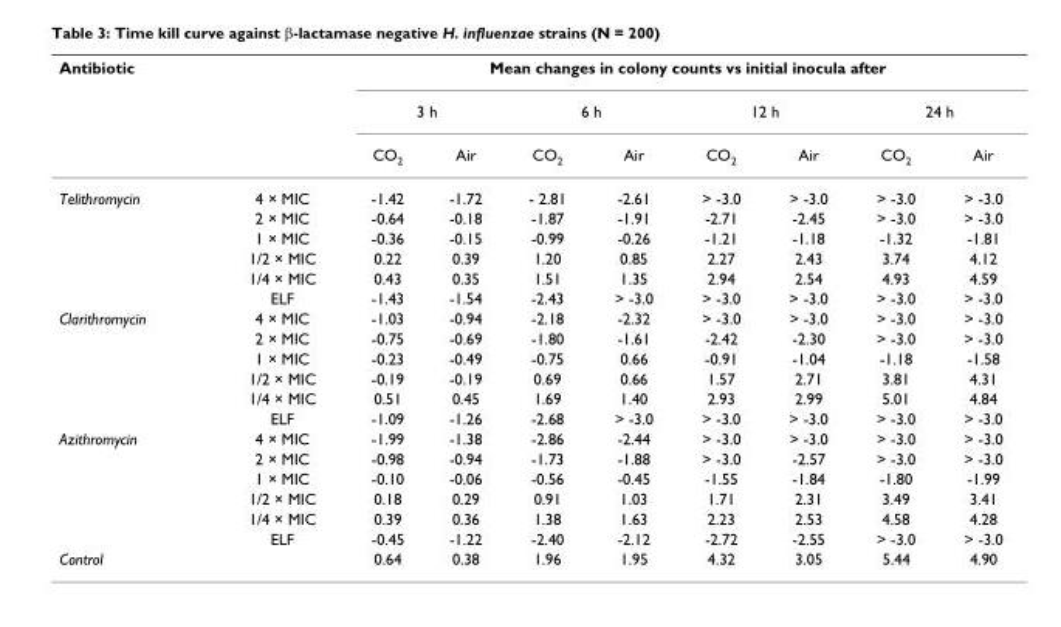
<table><thead><tr><td rowspan="3">Antibiotic</td><td rowspan="3"></td><td colspan="8">Mean changes in colony counts vs initial inocula after</td></tr><tr><td colspan="2">3 h</td><td colspan="2">6 h</td><td colspan="2">12 h</td><td colspan="2">24 h</td></tr><tr><td>CO<sub>2</sub></td><td>Air</td><td>CO<sub>2</sub></td><td>Air</td><td>CO<sub>2</sub></td><td>Air</td><td>CO<sub>2</sub></td><td>Air</td></tr></thead><tbody><tr><td rowspan="6">Telithromycin</td><td>4 × MIC</td><td>-1.42</td><td>-1.72</td><td>- 2.81</td><td>-2.61</td><td>&gt; -3.0</td><td>&gt; -3.0</td><td>&gt; -3.0</td><td>&gt; -3.0</td></tr><tr><td>2 × MIC</td><td>-0.64</td><td>-0.18</td><td>-1.87</td><td>-1.91</td><td>-2.71</td><td>-2.45</td><td>&gt; -3.0</td><td>&gt; -3.0</td></tr><tr><td>1 × MIC</td><td>-0.36</td><td>-0.15</td><td>-0.99</td><td>-0.26</td><td>-1.21</td><td>-1.18</td><td>-1.32</td><td>-1.81</td></tr><tr><td>1/2 × MIC</td><td>0.22</td><td>0.39</td><td>1.20</td><td>0.85</td><td>2.27</td><td>2.43</td><td>3.74</td><td>4.12</td></tr><tr><td>1/4 × MIC</td><td>0.43</td><td>0.35</td><td>1.51</td><td>1.35</td><td>2.94</td><td>2.54</td><td>4.93</td><td>4.59</td></tr><tr><td>ELF</td><td>-1.43</td><td>-1.54</td><td>-2.43</td><td>&gt; -3.0</td><td>&gt; -3.0</td><td>&gt; -3.0</td><td>&gt; -3.0</td><td>&gt; -3.0</td></tr><tr><td rowspan="6">Clarithromycin</td><td>4 × MIC</td><td>-1.03</td><td>-0.94</td><td>-2.18</td><td>-2.32</td><td>&gt; -3.0</td><td>&gt; -3.0</td><td>&gt; -3.0</td><td>&gt; -3.0</td></tr><tr><td>2 × MIC</td><td>-0.75</td><td>-0.69</td><td>-1.80</td><td>-1.61</td><td>-2.42</td><td>-2.30</td><td>&gt; -3.0</td><td>&gt; -3.0</td></tr><tr><td>1 × MIC</td><td>-0.23</td><td>-0.49</td><td>-0.75</td><td>0.66</td><td>-0.91</td><td>-1.04</td><td>-1.18</td><td>-1.58</td></tr><tr><td>1/2 × MIC</td><td>-0.19</td><td>-0.19</td><td>0.69</td><td>0.66</td><td>1.57</td><td>2.71</td><td>3.81</td><td>4.31</td></tr><tr><td>1/4 × MIC</td><td>0.51</td><td>0.45</td><td>1.69</td><td>1.40</td><td>2.93</td><td>2.99</td><td>5.01</td><td>4.84</td></tr><tr><td>ELF</td><td>-1.09</td><td>-1.26</td><td>-2.68</td><td>&gt; -3.0</td><td>&gt; -3.0</td><td>&gt; -3.0</td><td>&gt; -3.0</td><td>&gt; -3.0</td></tr><tr><td rowspan="6">Azithromycin</td><td>4 × MIC</td><td>-1.99</td><td>-1.38</td><td>-2.86</td><td>-2.44</td><td>&gt; -3.0</td><td>&gt; -3.0</td><td>&gt; -3.0</td><td>&gt; -3.0</td></tr><tr><td>2 × MIC</td><td>-0.98</td><td>-0.94</td><td>-1.73</td><td>-1.88</td><td>&gt; -3.0</td><td>-2.57</td><td>&gt; -3.0</td><td>&gt; -3.0</td></tr><tr><td>1 × MIC</td><td>-0.10</td><td>-0.06</td><td>-0.56</td><td>-0.45</td><td>-1.55</td><td>-1.84</td><td>-1.80</td><td>-1.99</td></tr><tr><td>1/2 × MIC</td><td>0.18</td><td>0.29</td><td>0.91</td><td>1.03</td><td>1.71</td><td>2.31</td><td>3.49</td><td>3.41</td></tr><tr><td>1/4 × MIC</td><td>0.39</td><td>0.36</td><td>1.38</td><td>1.63</td><td>2.23</td><td>2.53</td><td>4.58</td><td>4.28</td></tr><tr><td>ELF</td><td>-0.45</td><td>-1.22</td><td>-2.40</td><td>-2.12</td><td>-2.72</td><td>-2.55</td><td>&gt; -3.0</td><td>&gt; -3.0</td></tr><tr><td>Control</td><td></td><td>0.64</td><td>0.38</td><td>1.96</td><td>1.95</td><td>4.32</td><td>3.05</td><td>5.44</td><td>4.90</td></tr></tbody></table>